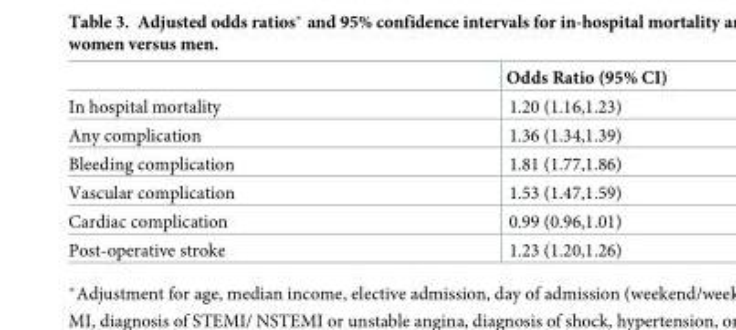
<table><thead><tr><td></td><td>Odds Ratio (95% CI)</td></tr></thead><tbody><tr><td>In hospital mortality</td><td>1.20 (1.16,1.23)</td></tr><tr><td>Any complication</td><td>1.36 (1.34,1.39)</td></tr><tr><td>Bleeding complication</td><td>1.81 (1.77,1.86)</td></tr><tr><td>Vascular complication</td><td>1.53 (1.47,1.59)</td></tr><tr><td>Cardiac complication</td><td>0.99 (0.96,1.01)</td></tr><tr><td>Post-operative stroke</td><td>1.23 (1.20,1.26)</td></tr></tbody></table>